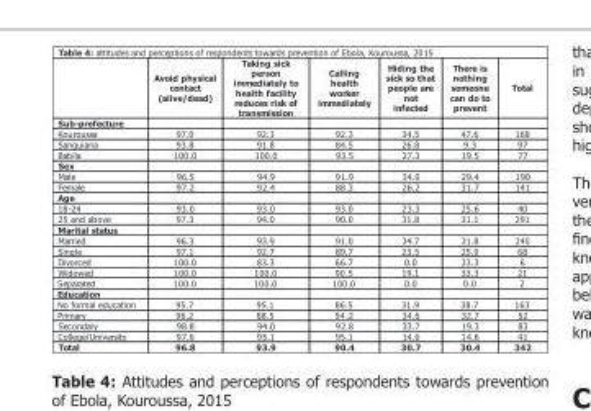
<table><thead><tr><td></td><td>Avoid physical contact (alive/dead)</td><td>Taking sick person immediately to health facility reduces risk of transmission</td><td>Calling health worker immediately</td><td>Hiding the sick so that people are not infected</td><td>There is nothing someone can do to prevent</td><td>Total</td></tr></thead><tbody><tr><td colspan="7">Subprefecture</td></tr><tr><td>Kouroussa</td><td>97.0</td><td>92.3</td><td>92.3</td><td>34.5</td><td>47.6</td><td>168</td></tr><tr><td>Sanguiana</td><td>93.8</td><td>91.8</td><td>84.5</td><td>26.8</td><td>9.3</td><td>97</td></tr><tr><td>Babila</td><td>100.0</td><td>100.0</td><td>93.5</td><td>27.3</td><td>19.5</td><td>77</td></tr><tr><td colspan="7">Sex</td></tr><tr><td>Male</td><td>96.5</td><td>94.9</td><td>91.9</td><td>34.0</td><td>29.4</td><td>190</td></tr><tr><td>Female</td><td>97.2</td><td>92.4</td><td>88.3</td><td>26.2</td><td>31.7</td><td>141</td></tr><tr><td colspan="7">Age</td></tr><tr><td>1824</td><td>93.0</td><td>93.0</td><td>93.0</td><td>23.3</td><td>25.6</td><td>40</td></tr><tr><td>25 and above</td><td>97.3</td><td>94.0</td><td>90.0</td><td>31.8</td><td>31.1</td><td>291</td></tr><tr><td colspan="7">Marital status</td></tr><tr><td>Married</td><td>96.3</td><td>93.9</td><td>91.0</td><td>34.7</td><td>31.8</td><td>245</td></tr><tr><td>Single</td><td>97.1</td><td>92.7</td><td>89.7</td><td>23.5</td><td>25.0</td><td>68</td></tr><tr><td>Divorced</td><td>100.0</td><td>83.3</td><td>66.7</td><td>0.0</td><td>33.3</td><td>6</td></tr><tr><td>Widowed</td><td>100.0</td><td>100.0</td><td>90.5</td><td>19.1</td><td>33.3</td><td>21</td></tr><tr><td>Separated</td><td>100.0</td><td>100.0</td><td>100.0</td><td>0.0</td><td>0.0</td><td>2</td></tr><tr><td colspan="7">Education</td></tr><tr><td>No formal education</td><td>95.7</td><td>95.1</td><td>86.5</td><td>31.9</td><td>38.7</td><td>163</td></tr><tr><td>Primary</td><td>96.2</td><td>88.5</td><td>94.2</td><td>34.6</td><td>32.7</td><td>52</td></tr><tr><td>Secondary</td><td>98.8</td><td>94.0</td><td>92.8</td><td>33.7</td><td>19.3</td><td>83</td></tr><tr><td>College/University</td><td>97.6</td><td>95.1</td><td>95.1</td><td>14.6</td><td>14.6</td><td>41</td></tr><tr><td>Total</td><td>96.8</td><td>93.9</td><td>90.4</td><td>30.7</td><td>30.4</td><td>342</td></tr></tbody></table>